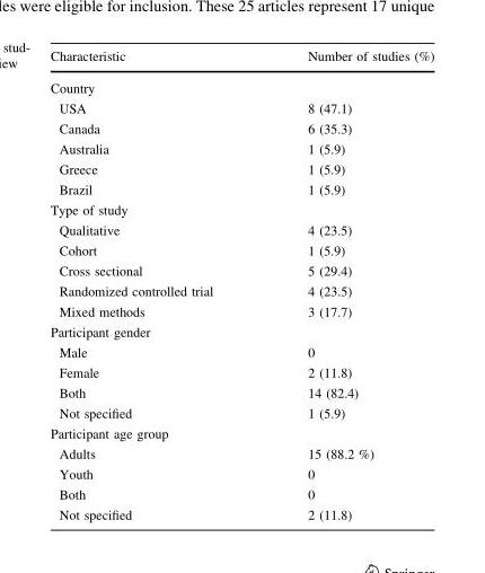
<table><thead><tr><td>Characteristic</td><td>Number of studies (%)</td></tr></thead><tbody><tr><td colspan="2">Country</td></tr><tr><td>USA</td><td>8 (47.1)</td></tr><tr><td>Canada</td><td>6 (35.3)</td></tr><tr><td>Australia</td><td>1 (5.9)</td></tr><tr><td>Greece</td><td>1 (5.9)</td></tr><tr><td>Brazil</td><td>1 (5.9)</td></tr><tr><td colspan="2">Type of study</td></tr><tr><td>Qualitative</td><td>4 (23.5)</td></tr><tr><td>Cohort</td><td>1 (5.9)</td></tr><tr><td>Cross sectional</td><td>5 (29.4)</td></tr><tr><td>Randomized controlled trial</td><td>4 (23.5)</td></tr><tr><td>Mixed methods</td><td>3 (17.7)</td></tr><tr><td colspan="2">Participant gender</td></tr><tr><td>Male</td><td>0</td></tr><tr><td>Female</td><td>2 (11.8)</td></tr><tr><td>Both</td><td>14 (82.4)</td></tr><tr><td>Not specified</td><td>1 (5.9)</td></tr><tr><td colspan="2">Participant age group</td></tr><tr><td>Adults</td><td>15 (88.2 %)</td></tr><tr><td>Youth</td><td>0</td></tr><tr><td>Both</td><td>0</td></tr><tr><td>Not specified</td><td>2 (11.8)</td></tr></tbody></table>